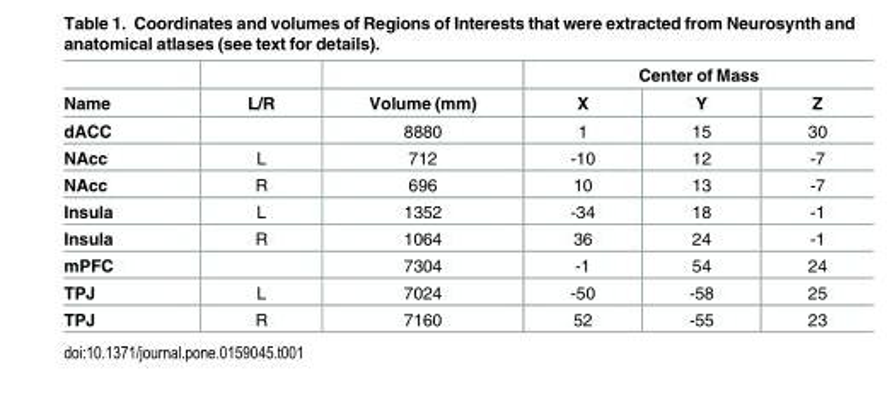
<table><thead><tr><td rowspan="2">Name</td><td rowspan="2">L/R</td><td rowspan="2">Volume (mm)</td><td colspan="3">Center of Mass</td></tr><tr><td>X</td><td>Y</td><td>Z</td></tr></thead><tbody><tr><td>dACC</td><td></td><td>8880</td><td>1</td><td>15</td><td>30</td></tr><tr><td>NAcc</td><td>L</td><td>712</td><td>-10</td><td>12</td><td>-7</td></tr><tr><td>NAcc</td><td>R</td><td>696</td><td>10</td><td>13</td><td>-7</td></tr><tr><td>Insula</td><td>L</td><td>1352</td><td>-34</td><td>18</td><td>-1</td></tr><tr><td>Insula</td><td>R</td><td>1064</td><td>36</td><td>24</td><td>-1</td></tr><tr><td>mPFC</td><td></td><td>7304</td><td>-1</td><td>54</td><td>24</td></tr><tr><td>TPJ</td><td>L</td><td>7024</td><td>-50</td><td>-58</td><td>25</td></tr><tr><td>TPJ</td><td>R</td><td>7160</td><td>52</td><td>-55</td><td>23</td></tr></tbody></table>